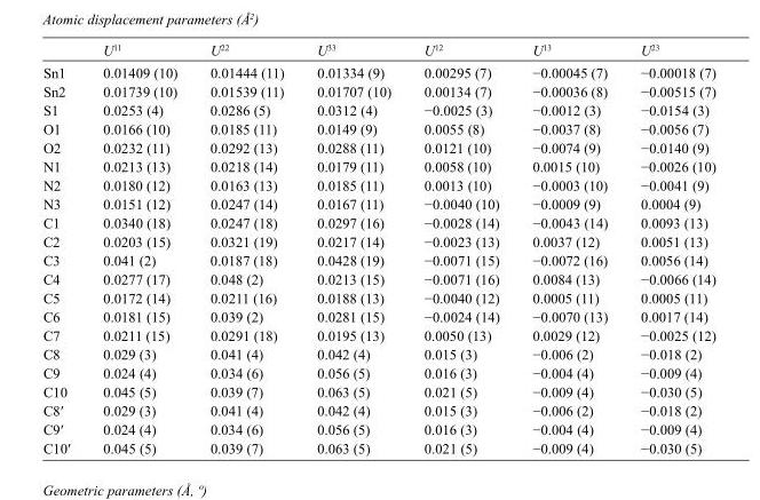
<table><thead><tr><td></td><td>U<sup>11</sup></td><td>U<sup>22</sup></td><td>U<sup>33</sup></td><td>U<sup>12</sup></td><td>U<sup>13</sup></td><td>U<sup>23</sup></td></tr></thead><tbody><tr><td>Sn1</td><td>0.01409 (10)</td><td>0.01444 (11)</td><td>0.01334 (9)</td><td>0.00295 (7)</td><td>−0.00045 (7)</td><td>−0.00018 (7)</td></tr><tr><td>Sn2</td><td>0.01739 (10)</td><td>0.01539 (11)</td><td>0.01707 (10)</td><td>0.00134 (7)</td><td>−0.00036 (8)</td><td>−0.00515 (7)</td></tr><tr><td>S1</td><td>0.0253 (4)</td><td>0.0286 (5)</td><td>0.0312 (4)</td><td>−0.0025 (3)</td><td>−0.0012 (3)</td><td>−0.0154 (3)</td></tr><tr><td>O1</td><td>0.0166 (10)</td><td>0.0185 (11)</td><td>0.0149 (9)</td><td>0.0055 (8)</td><td>−0.0037 (8)</td><td>−0.0056 (7)</td></tr><tr><td>O2</td><td>0.0232 (11)</td><td>0.0292 (13)</td><td>0.0288 (11)</td><td>0.0121 (10)</td><td>−0.0074 (9)</td><td>−0.0140 (9)</td></tr><tr><td>N1</td><td>0.0213 (13)</td><td>0.0218 (14)</td><td>0.0179 (11)</td><td>0.0058 (10)</td><td>0.0015 (10)</td><td>−0.0026 (10)</td></tr><tr><td>N2</td><td>0.0180 (12)</td><td>0.0163 (13)</td><td>0.0185 (11)</td><td>0.0013 (10)</td><td>−0.0003 (10)</td><td>−0.0041 (9)</td></tr><tr><td>N3</td><td>0.0151 (12)</td><td>0.0247 (14)</td><td>0.0167 (11)</td><td>−0.0040 (10)</td><td>−0.0009 (9)</td><td>0.0004 (9)</td></tr><tr><td>C1</td><td>0.0340 (18)</td><td>0.0247 (18)</td><td>0.0297 (16)</td><td>−0.0028 (14)</td><td>−0.0043 (14)</td><td>0.0093 (13)</td></tr><tr><td>C2</td><td>0.0203 (15)</td><td>0.0321 (19)</td><td>0.0217 (14)</td><td>−0.0023 (13)</td><td>0.0037 (12)</td><td>0.0051 (13)</td></tr><tr><td>C3</td><td>0.041 (2)</td><td>0.0187 (18)</td><td>0.0428 (19)</td><td>−0.0071 (15)</td><td>−0.0072 (16)</td><td>0.0056 (14)</td></tr><tr><td>C4</td><td>0.0277 (17)</td><td>0.048 (2)</td><td>0.0213 (15)</td><td>−0.0071 (16)</td><td>0.0084 (13)</td><td>−0.0066 (14)</td></tr><tr><td>C5</td><td>0.0172 (14)</td><td>0.0211 (16)</td><td>0.0188 (13)</td><td>−0.0040 (12)</td><td>0.0005 (11)</td><td>0.0005 (11)</td></tr><tr><td>C6</td><td>0.0181 (15)</td><td>0.039 (2)</td><td>0.0281 (15)</td><td>−0.0024 (14)</td><td>−0.0070 (13)</td><td>0.0017 (14)</td></tr><tr><td>C7</td><td>0.0211 (15)</td><td>0.0291 (18)</td><td>0.0195 (13)</td><td>0.0050 (13)</td><td>0.0029 (12)</td><td>−0.0025 (12)</td></tr><tr><td>C8</td><td>0.029 (3)</td><td>0.041 (4)</td><td>0.042 (4)</td><td>0.015 (3)</td><td>−0.006 (2)</td><td>−0.018 (2)</td></tr><tr><td>C9</td><td>0.024 (4)</td><td>0.034 (6)</td><td>0.056 (5)</td><td>0.016 (3)</td><td>−0.004 (4)</td><td>−0.009 (4)</td></tr><tr><td>C10</td><td>0.045 (5)</td><td>0.039 (7)</td><td>0.063 (5)</td><td>0.021 (5)</td><td>−0.009 (4)</td><td>−0.030 (5)</td></tr><tr><td>C8′</td><td>0.029 (3)</td><td>0.041 (4)</td><td>0.042 (4)</td><td>0.015 (3)</td><td>−0.006 (2)</td><td>−0.018 (2)</td></tr><tr><td>C9′</td><td>0.024 (4)</td><td>0.034 (6)</td><td>0.056 (5)</td><td>0.016 (3)</td><td>−0.004 (4)</td><td>−0.009 (4)</td></tr><tr><td>C10′</td><td>0.045 (5)</td><td>0.039 (7)</td><td>0.063 (5)</td><td>0.021 (5)</td><td>−0.009 (4)</td><td>−0.030 (5)</td></tr></tbody></table>